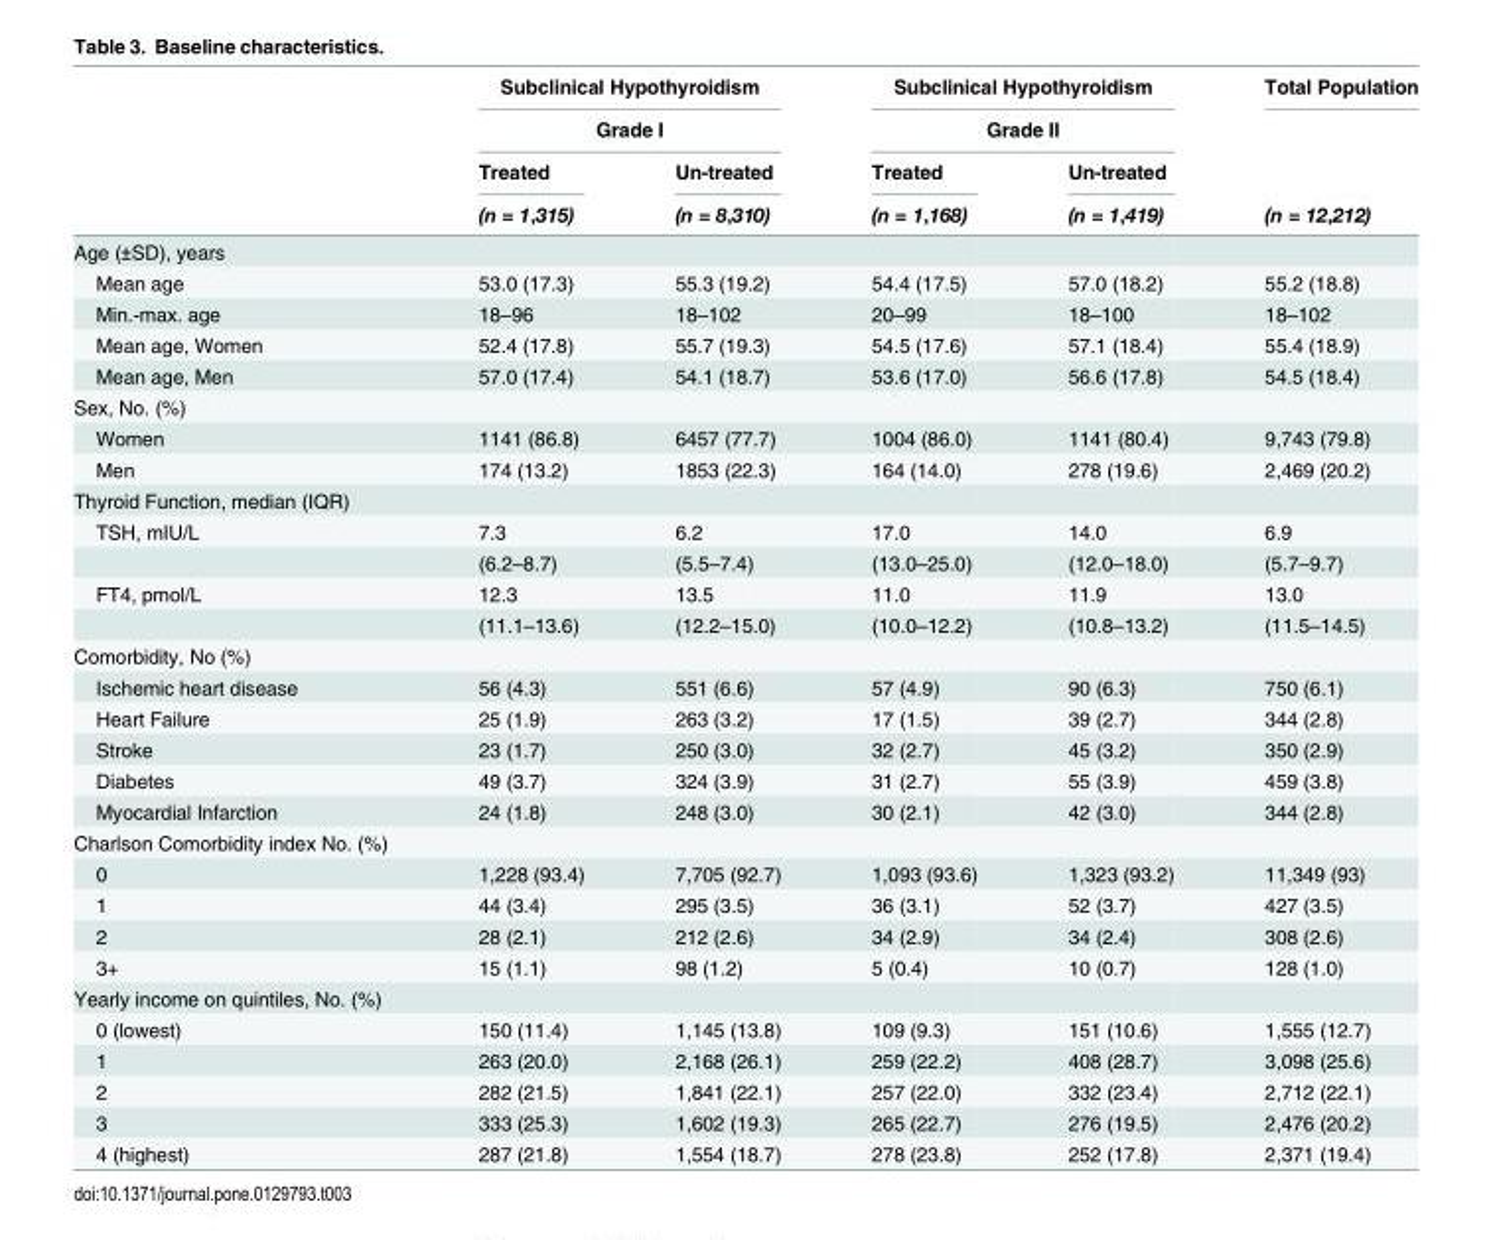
<table><thead><tr><td rowspan="4"></td><td rowspan="2" colspan="2">Subclinical Hypothyroidism Grade I</td><td rowspan="2" colspan="2">Subclinical Hypothyroidism Grade II</td><td rowspan="4">Total Population (n = 12,212)</td></tr><tr></tr><tr><td rowspan="2">Treated (n = 1,315)</td><td rowspan="2">Un-treated (n = 8,310)</td><td rowspan="2">Treated (n = 1,168)</td><td rowspan="2">Un-treated (n = 1,419)</td></tr><tr></tr></thead><tbody><tr><td colspan="6">Age (±SD), years</td></tr><tr><td>Mean age</td><td>53.0 (17.3)</td><td>55.3 (19.2)</td><td>54.4 (17.5)</td><td>57.0 (18.2)</td><td>55.2 (18.8)</td></tr><tr><td>Min.-max. age</td><td>18–96</td><td>18–102</td><td>20–99</td><td>18–100</td><td>18–102</td></tr><tr><td>Mean age, Women</td><td>52.4 (17.8)</td><td>55.7 (19.3)</td><td>54.5 (17.6)</td><td>57.1 (18.4)</td><td>55.4 (18.9)</td></tr><tr><td>Mean age, Men</td><td>57.0 (17.4)</td><td>54.1 (18.7)</td><td>53.6 (17.0)</td><td>56.6 (17.8)</td><td>54.5 (18.4)</td></tr><tr><td colspan="6">Sex, No. (%)</td></tr><tr><td>Women</td><td>1141 (86.8)</td><td>6457 (77.7)</td><td>1004 (86.0)</td><td>1141 (80.4)</td><td>9,743 (79.8)</td></tr><tr><td>Men</td><td>174 (13.2)</td><td>1853 (22.3)</td><td>164 (14.0)</td><td>278 (19.6)</td><td>2,469 (20.2)</td></tr><tr><td colspan="6">Thyroid Function, median (IQR)</td></tr><tr><td rowspan="2">TSH, mIU/L</td><td>7.3</td><td>6.2</td><td>17.0</td><td>14.0</td><td>6.9</td></tr><tr><td>(6.2–8.7)</td><td>(5.5–7.4)</td><td>(13.0–25.0)</td><td>(12.0–18.0)</td><td>(5.7–9.7)</td></tr><tr><td rowspan="2">FT4, pmol/L</td><td>12.3</td><td>13.5</td><td>11.0</td><td>11.9</td><td>13.0</td></tr><tr><td>(11.1–13.6)</td><td>(12.2–15.0)</td><td>(10.0–12.2)</td><td>(10.8–13.2)</td><td>(11.5–14.5)</td></tr><tr><td colspan="6">Comorbidity, No (%)</td></tr><tr><td>Ischemic heart disease</td><td>56 (4.3)</td><td>551 (6.6)</td><td>57 (4.9)</td><td>90 (6.3)</td><td>750 (6.1)</td></tr><tr><td>Heart Failure</td><td>25 (1.9)</td><td>263 (3.2)</td><td>17 (1.5)</td><td>39 (2.7)</td><td>344 (2.8)</td></tr><tr><td>Stroke</td><td>23 (1.7)</td><td>250 (3.0)</td><td>32 (2.7)</td><td>45 (3.2)</td><td>350 (2.9)</td></tr><tr><td>Diabetes</td><td>49 (3.7)</td><td>324 (3.9)</td><td>31 (2.7)</td><td>55 (3.9)</td><td>459 (3.8)</td></tr><tr><td>Myocardial Infarction</td><td>24 (1.8)</td><td>248 (3.0)</td><td>30 (2.1)</td><td>42 (3.0)</td><td>344 (2.8)</td></tr><tr><td colspan="6">Charlson Comorbidity index No. (%)</td></tr><tr><td>0</td><td>1,228 (93.4)</td><td>7,705 (92.7)</td><td>1,093 (93.6)</td><td>1,323 (93.2)</td><td>11,349 (93)</td></tr><tr><td>1</td><td>44 (3.4)</td><td>295 (3.5)</td><td>36 (3.1)</td><td>52 (3.7)</td><td>427 (3.5)</td></tr><tr><td>2</td><td>28 (2.1)</td><td>212 (2.6)</td><td>34 (2.9)</td><td>34 (2.4)</td><td>308 (2.6)</td></tr><tr><td>3+</td><td>15 (1.1)</td><td>98 (1.2)</td><td>5 (0.4)</td><td>10 (0.7)</td><td>128 (1.0)</td></tr><tr><td colspan="6">Yearly income on quintiles, No. (%)</td></tr><tr><td>0 (lowest)</td><td>150 (11.4)</td><td>1,145 (13.8)</td><td>109 (9.3)</td><td>151 (10.6)</td><td>1,555 (12.7)</td></tr><tr><td>1</td><td>263 (20.0)</td><td>2,168 (26.1)</td><td>259 (22.2)</td><td>408 (28.7)</td><td>3,098 (25.6)</td></tr><tr><td>2</td><td>282 (21.5)</td><td>1,841 (22.1)</td><td>257 (22.0)</td><td>332 (23.4)</td><td>2,712 (22.1)</td></tr><tr><td>3</td><td>333 (25.3)</td><td>1,602 (19.3)</td><td>265 (22.7)</td><td>276 (19.5)</td><td>2,476 (20.2)</td></tr><tr><td>4 (highest)</td><td>287 (21.8)</td><td>1,554 (18.7)</td><td>278 (23.8)</td><td>252 (17.8)</td><td>2,371 (19.4)</td></tr></tbody></table>